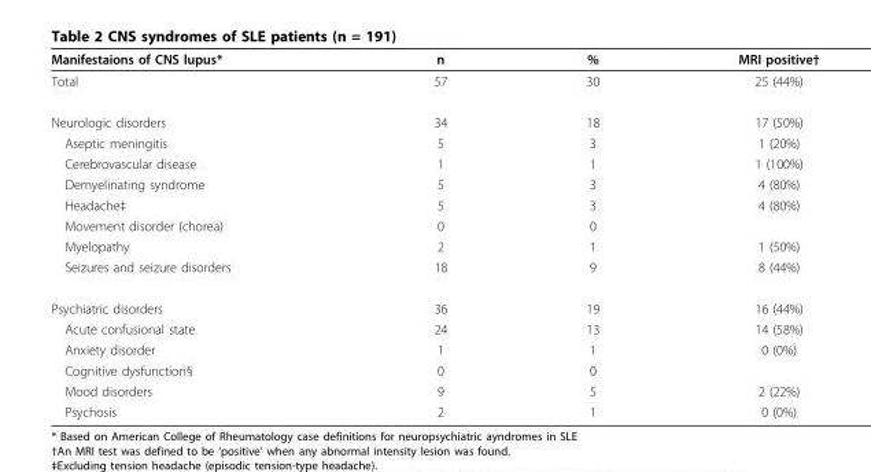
<table><thead><tr><td>Manifestaions of CNS lupus*</td><td>n</td><td>%</td><td>MRI positive†</td></tr></thead><tbody><tr><td>Total</td><td>57</td><td>30</td><td>25 (44%)</td></tr><tr><td>Neurologic disorders</td><td>34</td><td>18</td><td>17 (50%)</td></tr><tr><td>Aseptic meningitis</td><td>5</td><td>3</td><td>1 (20%)</td></tr><tr><td>Cerebrovascular disease</td><td>1</td><td>1</td><td>1 (100%)</td></tr><tr><td>Demyelinating syndrome</td><td>5</td><td>3</td><td>4 (80%)</td></tr><tr><td>Headache‡</td><td>5</td><td>3</td><td>4 (80%)</td></tr><tr><td>Movement disorder (chorea)</td><td>0</td><td>0</td><td></td></tr><tr><td>Myelopathy</td><td>2</td><td>1</td><td>1 (50%)</td></tr><tr><td>Seizures and seizure disorders</td><td>18</td><td>9</td><td>8 (44%)</td></tr><tr><td>Psychiatric disorders</td><td>36</td><td>19</td><td>16 (44%)</td></tr><tr><td>Acute confusional state</td><td>24</td><td>13</td><td>14 (58%)</td></tr><tr><td>Anxiety disorder</td><td>1</td><td>1</td><td>0 (0%)</td></tr><tr><td>Cognitive dysfunction§</td><td>0</td><td>0</td><td></td></tr><tr><td>Mood disorders</td><td>9</td><td>5</td><td>2 (22%)</td></tr><tr><td>Psychosis</td><td>2</td><td>1</td><td>0 (0%)</td></tr></tbody></table>